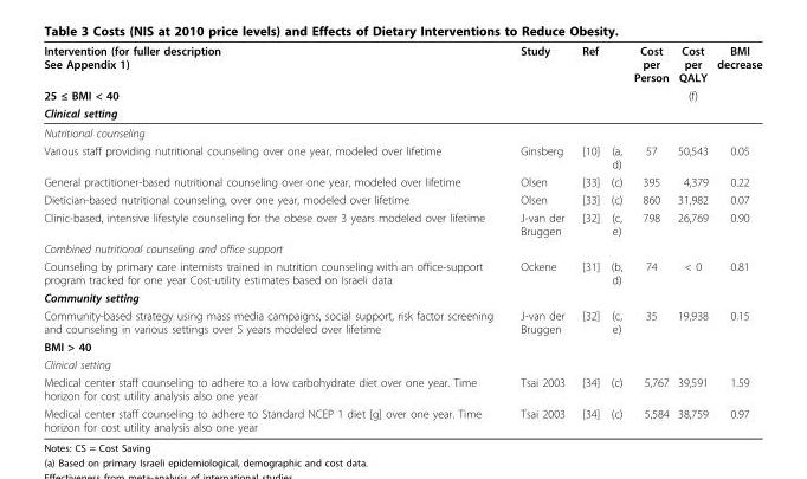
<table><thead><tr><td rowspan="3">Intervention (for fuller description See Appendix 1) 25 ≤ BMI &lt; 40 Clinical setting</td><td rowspan="3">Study</td><td rowspan="3">Ref</td><td rowspan="3"></td><td rowspan="3">Cost per Person</td><td rowspan="3">Cost per QALY (f)</td><td rowspan="3">BMI decrease</td></tr><tr></tr><tr></tr></thead><tbody><tr><td colspan="7">Nutritional counseling</td></tr><tr><td>Various staff providing nutritional counseling over one year, modeled over lifetime</td><td>Ginsberg</td><td>[10]</td><td>(a, d)</td><td>57</td><td>50,543</td><td>0.05</td></tr><tr><td>General practitioner-based nutritional counseling over one year, modeled over lifetime</td><td>Olsen</td><td>[33]</td><td>(c)</td><td>395</td><td>4,379</td><td>0.22</td></tr><tr><td>Dietician-based nutritional counseling, over one year, modeled over lifetime</td><td>Olsen</td><td>[33]</td><td>(c)</td><td>860</td><td>31,982</td><td>0.07</td></tr><tr><td>Clinic-based, intensive lifestyle counseling for the obese over 3 years modeled over lifetime</td><td>J-van der Bruggen</td><td>[32]</td><td>(c, e)</td><td>798</td><td>26,769</td><td>0.90</td></tr><tr><td colspan="7">Combined nutritional counseling and office support</td></tr><tr><td>Counseling by primary care internists trained in nutrition counseling with an office-support program tracked for one year Cost-utility estimates based on Israeli data</td><td>Ockene</td><td>[31]</td><td>(b, d)</td><td>74</td><td>&lt; 0</td><td>0.81</td></tr><tr><td colspan="7">Community setting</td></tr><tr><td>Community-based strategy using mass media campaigns, social support, risk factor screening and counseling in various settings over 5 years modeled over lifetime</td><td>J-van der Bruggen</td><td>[32]</td><td>(c, e)</td><td>35</td><td>19,938</td><td>0.15</td></tr><tr><td colspan="7">BMI &gt; 40</td></tr><tr><td colspan="7">Clinical setting</td></tr><tr><td>Medical center staff counseling to adhere to a low carbohydrate diet over one year. Time horizon for cost utility analysis also one year</td><td>Tsai 2003</td><td>[34]</td><td>(c)</td><td>5,767</td><td>39,591</td><td>1.59</td></tr><tr><td>Medical center staff counseling to adhere to Standard NCEP 1 diet [g] over one year. Time horizon for cost utility analysis also one year</td><td>Tsai 2003</td><td>[34]</td><td>(c)</td><td>5,584</td><td>38,759</td><td>0.97</td></tr></tbody></table>